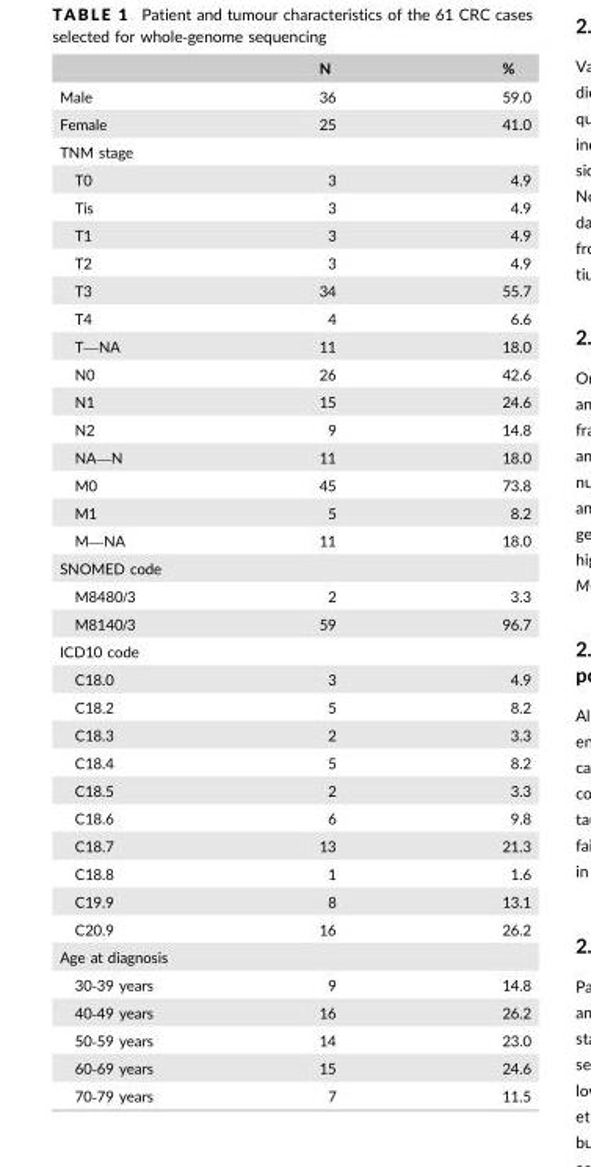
<table><thead><tr><td></td><td>N</td><td>%</td></tr></thead><tbody><tr><td>Male</td><td>36</td><td>59.0</td></tr><tr><td>Female</td><td>25</td><td>41.0</td></tr><tr><td colspan="3">TNM stage</td></tr><tr><td>T0</td><td>3</td><td>4.9</td></tr><tr><td>Tis</td><td>3</td><td>4.9</td></tr><tr><td>T1</td><td>3</td><td>4.9</td></tr><tr><td>T2</td><td>3</td><td>4.9</td></tr><tr><td>T3</td><td>34</td><td>55.7</td></tr><tr><td>T4</td><td>4</td><td>6.6</td></tr><tr><td>T—NA</td><td>11</td><td>18.0</td></tr><tr><td>N0</td><td>26</td><td>42.6</td></tr><tr><td>N1</td><td>15</td><td>24.6</td></tr><tr><td>N2</td><td>9</td><td>14.8</td></tr><tr><td>NA—N</td><td>11</td><td>18.0</td></tr><tr><td>M0</td><td>45</td><td>73.8</td></tr><tr><td>M1</td><td>5</td><td>8.2</td></tr><tr><td>M—NA</td><td>11</td><td>18.0</td></tr><tr><td colspan="3">SNOMED code</td></tr><tr><td>M8480/3</td><td>2</td><td>3.3</td></tr><tr><td>M8140/3</td><td>59</td><td>96.7</td></tr><tr><td colspan="3">ICD10 code</td></tr><tr><td>C18.0</td><td>3</td><td>4.9</td></tr><tr><td>C18.2</td><td>5</td><td>8.2</td></tr><tr><td>C18.3</td><td>2</td><td>3.3</td></tr><tr><td>C18.4</td><td>5</td><td>8.2</td></tr><tr><td>C18.5</td><td>2</td><td>3.3</td></tr><tr><td>C18.6</td><td>6</td><td>9.8</td></tr><tr><td>C18.7</td><td>13</td><td>21.3</td></tr><tr><td>C18.8</td><td>1</td><td>1.6</td></tr><tr><td>C19.9</td><td>8</td><td>13.1</td></tr><tr><td>C20.9</td><td>16</td><td>26.2</td></tr><tr><td colspan="3">Age at diagnosis</td></tr><tr><td>30‐39 years</td><td>9</td><td>14.8</td></tr><tr><td>40‐49 years</td><td>16</td><td>26.2</td></tr><tr><td>50‐59 years</td><td>14</td><td>23.0</td></tr><tr><td>60‐69 years</td><td>15</td><td>24.6</td></tr><tr><td>70‐79 years</td><td>7</td><td>11.5</td></tr></tbody></table>